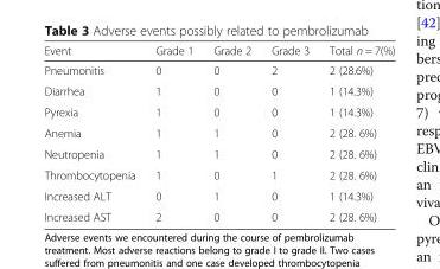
<table><thead><tr><td>Event</td><td>Grade 1</td><td>Grade 2</td><td>Grade 3</td><td>Total n = 7(%)</td></tr></thead><tbody><tr><td>Pneumonitis</td><td>0</td><td>0</td><td>2</td><td>2 (28.6%)</td></tr><tr><td>Diarrhea</td><td>1</td><td>0</td><td>0</td><td>1 (14.3%)</td></tr><tr><td>Pyrexia</td><td>1</td><td>0</td><td>0</td><td>1 (14.3%)</td></tr><tr><td>Anemia</td><td>1</td><td>1</td><td>0</td><td>2 (28. 6%)</td></tr><tr><td>Neutropenia</td><td>1</td><td>1</td><td>0</td><td>2 (28. 6%)</td></tr><tr><td>Thrombocytopenia</td><td>1</td><td>0</td><td>1</td><td>2 (28. 6%)</td></tr><tr><td>Increased ALT</td><td>0</td><td>1</td><td>0</td><td>1 (14.3%)</td></tr><tr><td>Increased AST</td><td>2</td><td>0</td><td>0</td><td>2 (28. 6%)</td></tr></tbody></table>